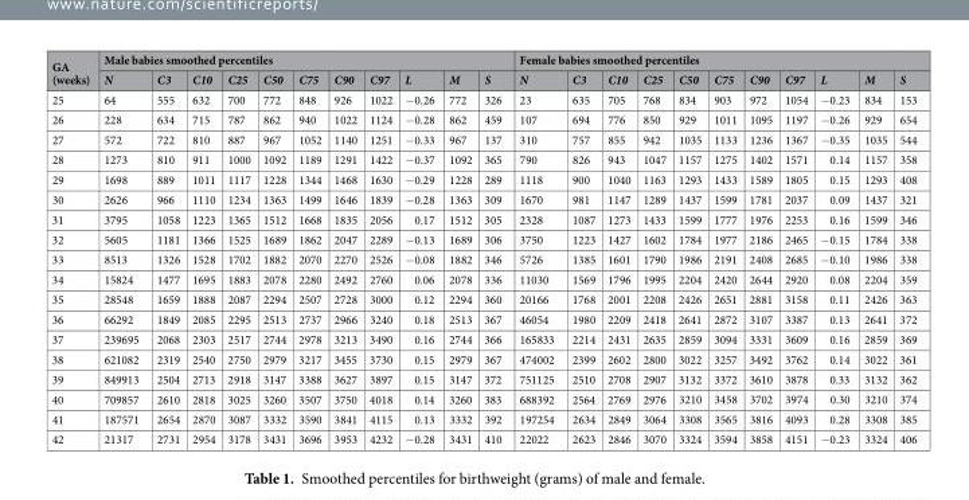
<table><thead><tr><td rowspan="2">GA (weeks)</td><td colspan="11">Male babies smoothed percentiles</td><td colspan="11">Female babies smoothed percentiles</td></tr><tr><td>N</td><td>C3</td><td>C10</td><td>C25</td><td>C50</td><td>C75</td><td>C90</td><td>C97</td><td>L</td><td>M</td><td>S</td><td>N</td><td>C3</td><td>C10</td><td>C25</td><td>C50</td><td>C75</td><td>C90</td><td>C97</td><td>L</td><td>M</td><td>S</td></tr></thead><tbody><tr><td>25</td><td>64</td><td>555</td><td>632</td><td>700</td><td>772</td><td>848</td><td>926</td><td>1022</td><td>−0.26</td><td>772</td><td>326</td><td>23</td><td>635</td><td>705</td><td>768</td><td>834</td><td>903</td><td>972</td><td>1054</td><td>−0.23</td><td>834</td><td>153</td></tr><tr><td>26</td><td>228</td><td>634</td><td>715</td><td>787</td><td>862</td><td>940</td><td>1022</td><td>1124</td><td>−0.28</td><td>862</td><td>459</td><td>107</td><td>694</td><td>776</td><td>850</td><td>929</td><td>1011</td><td>1095</td><td>1197</td><td>−0.26</td><td>929</td><td>654</td></tr><tr><td>27</td><td>572</td><td>722</td><td>810</td><td>887</td><td>967</td><td>1052</td><td>1140</td><td>1251</td><td>−0.33</td><td>967</td><td>137</td><td>310</td><td>757</td><td>855</td><td>942</td><td>1035</td><td>1133</td><td>1236</td><td>1367</td><td>−0.35</td><td>1035</td><td>544</td></tr><tr><td>28</td><td>1273</td><td>810</td><td>911</td><td>1000</td><td>1092</td><td>1189</td><td>1291</td><td>1422</td><td>−0.37</td><td>1092</td><td>365</td><td>790</td><td>826</td><td>943</td><td>1047</td><td>1157</td><td>1275</td><td>1402</td><td>1571</td><td>0.14</td><td>1157</td><td>358</td></tr><tr><td>29</td><td>1698</td><td>889</td><td>1011</td><td>1117</td><td>1228</td><td>1344</td><td>1468</td><td>1630</td><td>−0.29</td><td>1228</td><td>289</td><td>1118</td><td>900</td><td>1040</td><td>1163</td><td>1293</td><td>1433</td><td>1589</td><td>1805</td><td>0.15</td><td>1293</td><td>408</td></tr><tr><td>30</td><td>2626</td><td>966</td><td>1110</td><td>1234</td><td>1363</td><td>1499</td><td>1646</td><td>1839</td><td>−0.28</td><td>1363</td><td>309</td><td>1670</td><td>981</td><td>1147</td><td>1289</td><td>1437</td><td>1599</td><td>1781</td><td>2037</td><td>0.09</td><td>1437</td><td>321</td></tr><tr><td>31</td><td>3795</td><td>1058</td><td>1223</td><td>1365</td><td>1512</td><td>1668</td><td>1835</td><td>2056</td><td>0.17</td><td>1512</td><td>305</td><td>2328</td><td>1087</td><td>1273</td><td>1433</td><td>1599</td><td>1777</td><td>1976</td><td>2253</td><td>0.16</td><td>1599</td><td>346</td></tr><tr><td>32</td><td>5605</td><td>1181</td><td>1366</td><td>1525</td><td>1689</td><td>1862</td><td>2047</td><td>2289</td><td>−0.13</td><td>1689</td><td>306</td><td>3750</td><td>1223</td><td>1427</td><td>1602</td><td>1784</td><td>1977</td><td>2186</td><td>2465</td><td>−0.15</td><td>1784</td><td>338</td></tr><tr><td>33</td><td>8513</td><td>1326</td><td>1528</td><td>1702</td><td>1882</td><td>2070</td><td>2270</td><td>2526</td><td>−0.08</td><td>1882</td><td>346</td><td>5726</td><td>1385</td><td>1601</td><td>1790</td><td>1986</td><td>2191</td><td>2408</td><td>2685</td><td>−0.10</td><td>1986</td><td>338</td></tr><tr><td>34</td><td>15824</td><td>1477</td><td>1695</td><td>1883</td><td>2078</td><td>2280</td><td>2492</td><td>2760</td><td>0.06</td><td>2078</td><td>336</td><td>11030</td><td>1569</td><td>1796</td><td>1995</td><td>2204</td><td>2420</td><td>2644</td><td>2920</td><td>0.08</td><td>2204</td><td>359</td></tr><tr><td>35</td><td>28548</td><td>1659</td><td>1888</td><td>2087</td><td>2294</td><td>2507</td><td>2728</td><td>3000</td><td>0.12</td><td>2294</td><td>360</td><td>20166</td><td>1768</td><td>2001</td><td>2208</td><td>2426</td><td>2651</td><td>2881</td><td>3158</td><td>0.11</td><td>2426</td><td>363</td></tr><tr><td>36</td><td>66292</td><td>1849</td><td>2085</td><td>2295</td><td>2513</td><td>2737</td><td>2966</td><td>3240</td><td>0.18</td><td>2513</td><td>367</td><td>46054</td><td>1980</td><td>2209</td><td>2418</td><td>2641</td><td>2872</td><td>3107</td><td>3387</td><td>0.13</td><td>2641</td><td>372</td></tr><tr><td>37</td><td>239695</td><td>2068</td><td>2303</td><td>2517</td><td>2744</td><td>2978</td><td>3213</td><td>3490</td><td>0.16</td><td>2744</td><td>366</td><td>165833</td><td>2214</td><td>2431</td><td>2635</td><td>2859</td><td>3094</td><td>3331</td><td>3609</td><td>0.16</td><td>2859</td><td>369</td></tr><tr><td>38</td><td>621082</td><td>2319</td><td>2540</td><td>2750</td><td>2979</td><td>3217</td><td>3455</td><td>3730</td><td>0.15</td><td>2979</td><td>367</td><td>474002</td><td>2399</td><td>2602</td><td>2800</td><td>3022</td><td>3257</td><td>3492</td><td>3762</td><td>0.14</td><td>3022</td><td>361</td></tr><tr><td>39</td><td>849913</td><td>2504</td><td>2713</td><td>2918</td><td>3147</td><td>3388</td><td>3627</td><td>3897</td><td>0.15</td><td>3147</td><td>372</td><td>751125</td><td>2510</td><td>2708</td><td>2907</td><td>3132</td><td>3372</td><td>3610</td><td>3878</td><td>0.33</td><td>3132</td><td>362</td></tr><tr><td>40</td><td>709857</td><td>2610</td><td>2818</td><td>3025</td><td>3260</td><td>3507</td><td>3750</td><td>4018</td><td>0.14</td><td>3260</td><td>383</td><td>688392</td><td>2564</td><td>2769</td><td>2976</td><td>3210</td><td>3458</td><td>3702</td><td>3974</td><td>0.30</td><td>3210</td><td>374</td></tr><tr><td>41</td><td>187571</td><td>2654</td><td>2870</td><td>3087</td><td>3332</td><td>3590</td><td>3841</td><td>4115</td><td>0.13</td><td>3332</td><td>392</td><td>197254</td><td>2634</td><td>2849</td><td>3064</td><td>3308</td><td>3565</td><td>3816</td><td>4093</td><td>0.28</td><td>3308</td><td>385</td></tr><tr><td>42</td><td>21317</td><td>2731</td><td>2954</td><td>3178</td><td>3431</td><td>3696</td><td>3953</td><td>4232</td><td>−0.28</td><td>3431</td><td>410</td><td>22022</td><td>2623</td><td>2846</td><td>3070</td><td>3324</td><td>3594</td><td>3858</td><td>4151</td><td>−0.23</td><td>3324</td><td>406</td></tr></tbody></table>